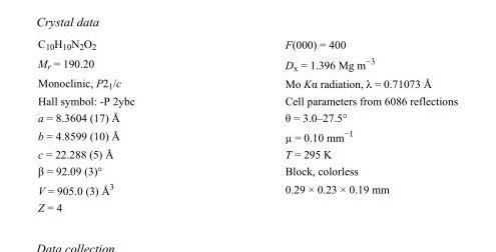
<table><tbody><tr><td>C<sub>10</sub>H<sub>10</sub>N<sub>2</sub>O<sub>2</sub></td><td>F(000) = 400</td></tr><tr><td>M<sub>r</sub> = 190.20</td><td>D<sub>x</sub> = 1.396 Mg m<sup>−3</sup></td></tr><tr><td>Monoclinic, P2<sub>1</sub>/c</td><td>Mo Kα radiation, λ = 0.71073 Å</td></tr><tr><td>Hall symbol: -P 2ybc</td><td>Cell parameters from 6086 reflections</td></tr><tr><td>a = 8.3604 (17) Å</td><td>θ = 3.0–27.5°</td></tr><tr><td>b = 4.8599 (10) Å</td><td>µ = 0.10 mm<sup>−1</sup></td></tr><tr><td>c = 22.288 (5) Å</td><td>T = 295 K</td></tr><tr><td>β = 92.09 (3)°</td><td>Block, colorless</td></tr><tr><td>V = 905.0 (3) Å<sup>3</sup></td><td>0.29 × 0.23 × 0.19 mm</td></tr><tr><td>Z = 4</td><td></td></tr></tbody></table>